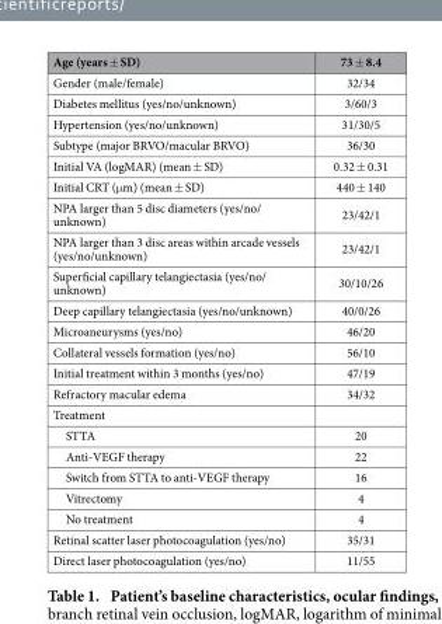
<table><thead><tr><td>Age (years ± SD)</td><td>73 ± 8.4</td></tr></thead><tbody><tr><td>Gender (male/female)</td><td>32/34</td></tr><tr><td>Diabetes mellitus (yes/no/unknown)</td><td>3/60/3</td></tr><tr><td>Hypertension (yes/no/unknown)</td><td>31/30/5</td></tr><tr><td>Subtype (major BRVO/macular BRVO)</td><td>36/30</td></tr><tr><td>Initial VA (logMAR) (mean ± SD)</td><td>0.32 ± 0.31</td></tr><tr><td>Initial CRT (μ m) (mean ± SD)</td><td>440 ± 140</td></tr><tr><td>NPA larger than 5 disc diameters (yes/no/ unknown)</td><td>23/42/1</td></tr><tr><td>NPA larger than 3 disc areas within arcade vessels (yes/no/unknown)</td><td>23/42/1</td></tr><tr><td>Superficial capillary telangiectasia (yes/no/ unknown)</td><td>30/10/26</td></tr><tr><td>Deep capillary telangiectasia (yes/no/unknown)</td><td>40/0/26</td></tr><tr><td>Microaneurysms (yes/no)</td><td>46/20</td></tr><tr><td>Collateral vessels formation (yes/no)</td><td>56/10</td></tr><tr><td>Initial treatment within 3 months (yes/no)</td><td>47/19</td></tr><tr><td>Refractory macular edema</td><td>34/32</td></tr><tr><td colspan="2">Treatment</td></tr><tr><td>STTA</td><td>20</td></tr><tr><td>Anti-VEGF therapy</td><td>22</td></tr><tr><td>Switch from STTA to anti-VEGF therapy</td><td>16</td></tr><tr><td>Vitrectomy</td><td>4</td></tr><tr><td>No treatment</td><td>4</td></tr><tr><td>Retinal scatter laser photocoagulation (yes/no)</td><td>35/31</td></tr><tr><td>Direct laser photocoagulation (yes/no)</td><td>11/55</td></tr></tbody></table>